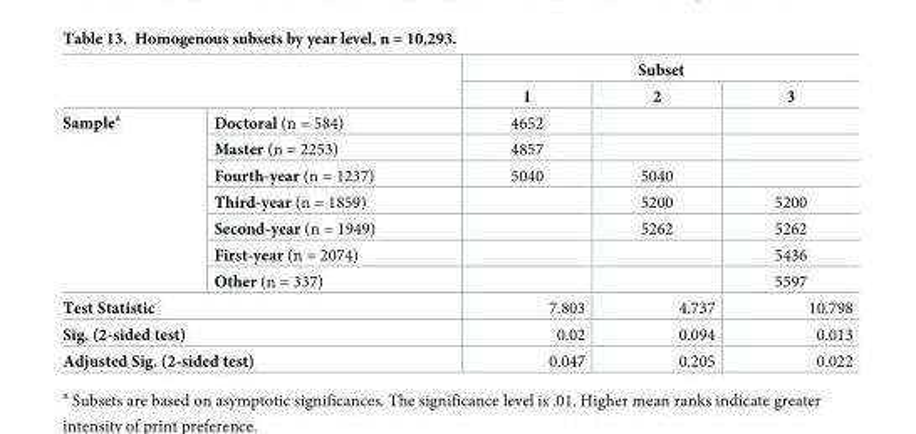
<table><thead><tr><td rowspan="2"></td><td rowspan="2"></td><td colspan="3">Subset</td></tr><tr><td>1</td><td>2</td><td>3</td></tr></thead><tbody><tr><td rowspan="7">Sample<sup>a</sup></td><td>Doctoral (n = 584)</td><td>4652</td><td></td><td></td></tr><tr><td>Master (n = 2253)</td><td>4857</td><td></td><td></td></tr><tr><td>Fourth-year (n = 1237)</td><td>5040</td><td>5040</td><td></td></tr><tr><td>Third-year (n = 1859)</td><td></td><td>5200</td><td>5200</td></tr><tr><td>Second-year (n = 1949)</td><td></td><td>5262</td><td>5262</td></tr><tr><td>First-year (n = 2074)</td><td></td><td></td><td>5436</td></tr><tr><td>Other (n = 337)</td><td></td><td></td><td>5597</td></tr><tr><td colspan="2">Test Statistic</td><td>7.803</td><td>4.737</td><td>10.798</td></tr><tr><td colspan="2">Sig. (2-sided test)</td><td>0.02</td><td>0.094</td><td>0.013</td></tr><tr><td colspan="2">Adjusted Sig. (2-sided test)</td><td>0.047</td><td>0.205</td><td>0.022</td></tr></tbody></table>